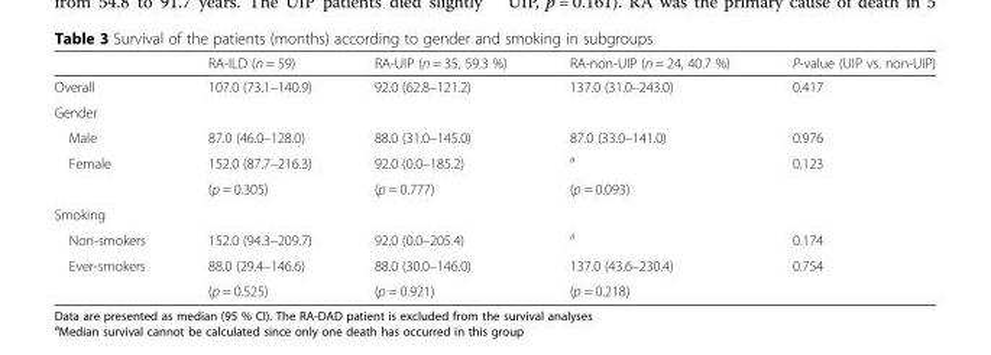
<table><thead><tr><td></td><td>RA-ILD (n = 59)</td><td>RA-UIP (n = 35, 59.3 %)</td><td>RA-non-UIP (n = 24, 40.7 %)</td><td>P-value (UIP vs. non-UIP)</td></tr></thead><tbody><tr><td>Overall</td><td>107.0 (73.1–140.9)</td><td>92.0 (62.8–121.2)</td><td>137.0 (31.0–243.0)</td><td>0.417</td></tr><tr><td colspan="5">Gender</td></tr><tr><td>Male</td><td>87.0 (46.0–128.0)</td><td>88.0 (31.0–145.0)</td><td>87.0 (33.0–141.0)</td><td>0.976</td></tr><tr><td rowspan="2">Female</td><td>152.0 (87.7–216.3)</td><td>92.0 (0.0–185.2)</td><td><sup>a</sup></td><td>0.123</td></tr><tr><td>(p = 0.305)</td><td>(p = 0.777)</td><td>(p = 0.093)</td><td></td></tr><tr><td colspan="5">Smoking</td></tr><tr><td>Non-smokers</td><td>152.0 (94.3–209.7)</td><td>92.0 (0.0–205.4)</td><td><sup>a</sup></td><td>0.174</td></tr><tr><td rowspan="2">Ever-smokers</td><td>88.0 (29.4–146.6)</td><td>88.0 (30.0–146.0)</td><td>137.0 (43.6–230.4)</td><td>0.754</td></tr><tr><td>(p = 0.525)</td><td>(p = 0.921)</td><td>(p = 0.218)</td><td></td></tr></tbody></table>